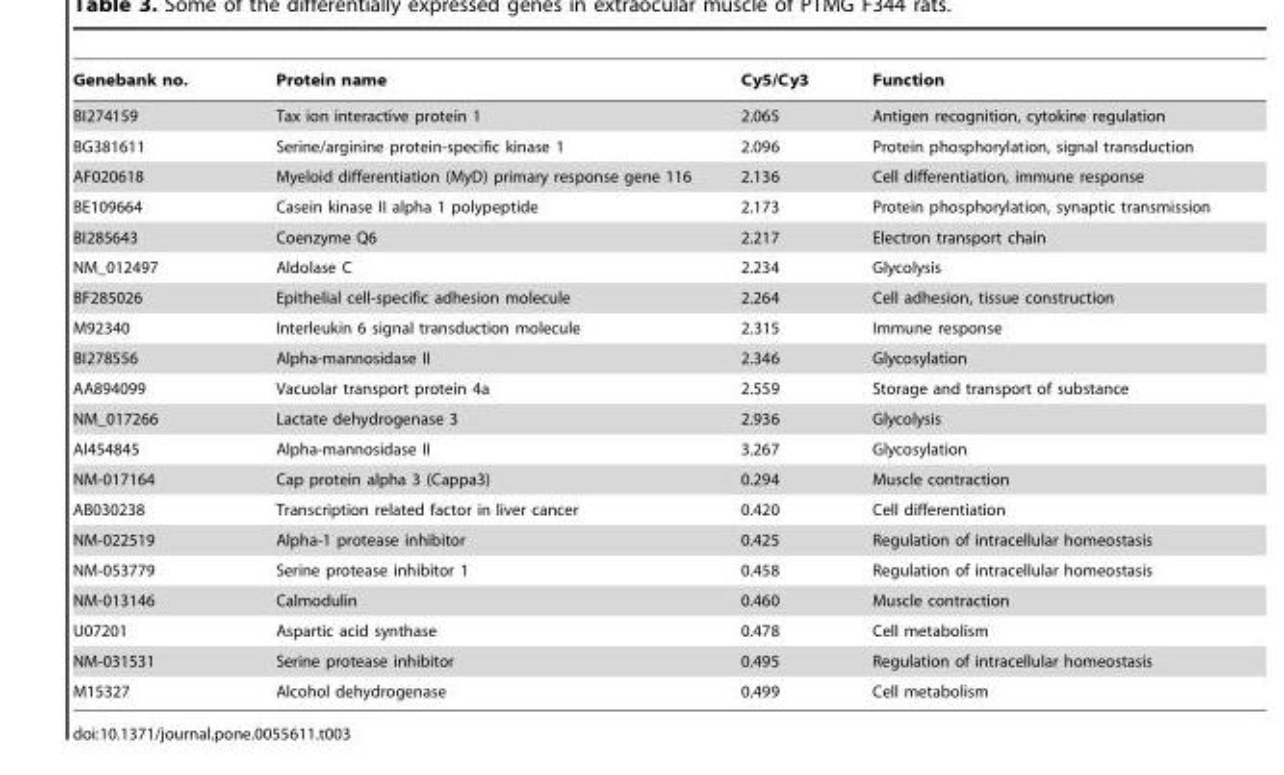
<table><thead><tr><td>Genebank no.</td><td>Protein name</td><td>Cy5/Cy3</td><td>Function</td></tr></thead><tbody><tr><td>BI274159</td><td>Tax ion interactive protein 1</td><td>2.065</td><td>Antigen recognition, cytokine regulation</td></tr><tr><td>BG381611</td><td>Serine/arginine protein-specific kinase 1</td><td>2.096</td><td>Protein phosphorylation, signal transduction</td></tr><tr><td>AF020618</td><td>Myeloid differentiation (MyD) primary response gene 116</td><td>2.136</td><td>Cell differentiation, immune response</td></tr><tr><td>BE109664</td><td>Casein kinase II alpha 1 polypeptide</td><td>2.173</td><td>Protein phosphorylation, synaptic transmission</td></tr><tr><td>BI285643</td><td>Coenzyme Q6</td><td>2.217</td><td>Electron transport chain</td></tr><tr><td>NM_012497</td><td>Aldolase C</td><td>2.234</td><td>Glycolysis</td></tr><tr><td>BF285026</td><td>Epithelial cell-specific adhesion molecule</td><td>2.264</td><td>Cell adhesion, tissue construction</td></tr><tr><td>M92340</td><td>Interleukin 6 signal transduction molecule</td><td>2.315</td><td>Immune response</td></tr><tr><td>BI278556</td><td>Alpha-mannosidase II</td><td>2.346</td><td>Glycosylation</td></tr><tr><td>AA894099</td><td>Vacuolar transport protein 4a</td><td>2.559</td><td>Storage and transport of substance</td></tr><tr><td>NM_017266</td><td>Lactate dehydrogenase 3</td><td>2.936</td><td>Glycolysis</td></tr><tr><td>AI454845</td><td>Alpha-mannosidase II</td><td>3.267</td><td>Glycosylation</td></tr><tr><td>NM-017164</td><td>Cap protein alpha 3 (Cappa3)</td><td>0.294</td><td>Muscle contraction</td></tr><tr><td>AB030238</td><td>Transcription related factor in liver cancer</td><td>0.420</td><td>Cell differentiation</td></tr><tr><td>NM-022519</td><td>Alpha-1 protease inhibitor</td><td>0.425</td><td>Regulation of intracellular homeostasis</td></tr><tr><td>NM-053779</td><td>Serine protease inhibitor 1</td><td>0.458</td><td>Regulation of intracellular homeostasis</td></tr><tr><td>NM-013146</td><td>Calmodulin</td><td>0.460</td><td>Muscle contraction</td></tr><tr><td>U07201</td><td>Aspartic acid synthase</td><td>0.478</td><td>Cell metabolism</td></tr><tr><td>NM-031531</td><td>Serine protease inhibitor</td><td>0.495</td><td>Regulation of intracellular homeostasis</td></tr><tr><td>M15327</td><td>Alcohol dehydrogenase</td><td>0.499</td><td>Cell metabolism</td></tr></tbody></table>